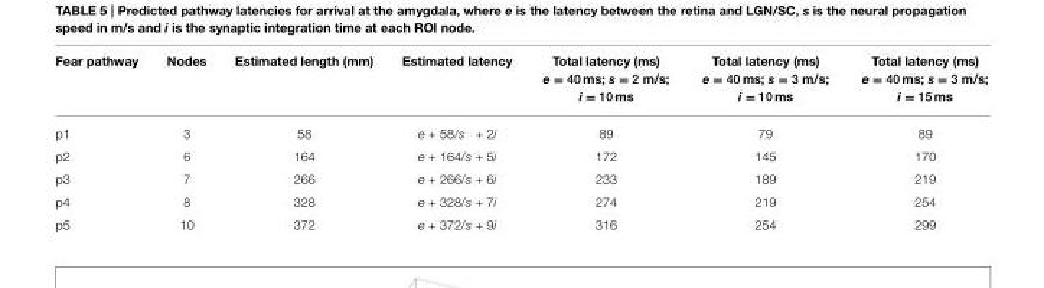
<table><thead><tr><td>Fear pathway</td><td>Nodes</td><td>Estimated length (mm)</td><td>Estimated latency</td><td>Total latency (ms) e = 40 ms; s = 2 m/s; i = 10 ms</td><td>Total latency (ms) e = 40 ms; s = 3 m/s; i = 10 ms</td><td>Total latency (ms) e = 40 ms; s = 3 m/s; i = 15 ms</td></tr></thead><tbody><tr><td>p1</td><td>3</td><td>58</td><td>e + 58/s + 2i</td><td>89</td><td>79</td><td>89</td></tr><tr><td>p2</td><td>6</td><td>164</td><td>e + 164/s + 5i</td><td>172</td><td>145</td><td>170</td></tr><tr><td>p3</td><td>7</td><td>266</td><td>e + 266/s + 6i</td><td>233</td><td>189</td><td>219</td></tr><tr><td>p4</td><td>8</td><td>328</td><td>e + 328/s + 7i</td><td>274</td><td>219</td><td>254</td></tr><tr><td>p5</td><td>10</td><td>372</td><td>e + 372/s + 9i</td><td>316</td><td>254</td><td>299</td></tr></tbody></table>